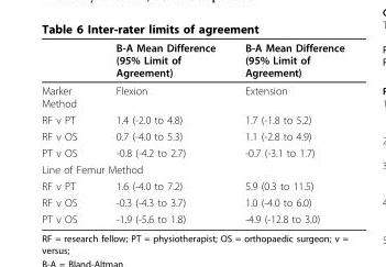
<table><thead><tr><td></td><td>B-A Mean Difference (95% Limit of Agreement)</td><td>B-A Mean Difference (95% Limit of Agreement)</td></tr></thead><tbody><tr><td>Marker Method</td><td>Flexion</td><td>Extension</td></tr><tr><td>RF v PT</td><td>1.4 (-2.0 to 4.8)</td><td>1.7 (-1.8 to 5.2)</td></tr><tr><td>RF v OS</td><td>0.7 (-4.0 to 5.3)</td><td>1.1 (-2.8 to 4.9)</td></tr><tr><td>PT v OS</td><td>-0.8 (-4.2 to 2.7)</td><td>-0.7 (-3.1 to 1.7)</td></tr><tr><td colspan="3">Line of Femur Method</td></tr><tr><td>RF v PT</td><td>1.6 (-4.0 to 7.2)</td><td>5.9 (0.3 to 11.5)</td></tr><tr><td>RF v OS</td><td>-0.3 (-4.3 to 3.7)</td><td>1.0 (-4.0 to 6.0)</td></tr><tr><td>PT v OS</td><td>-1.9 (-5.6 to 1.8)</td><td>-4.9 (-12.8 to 3.0)</td></tr></tbody></table>